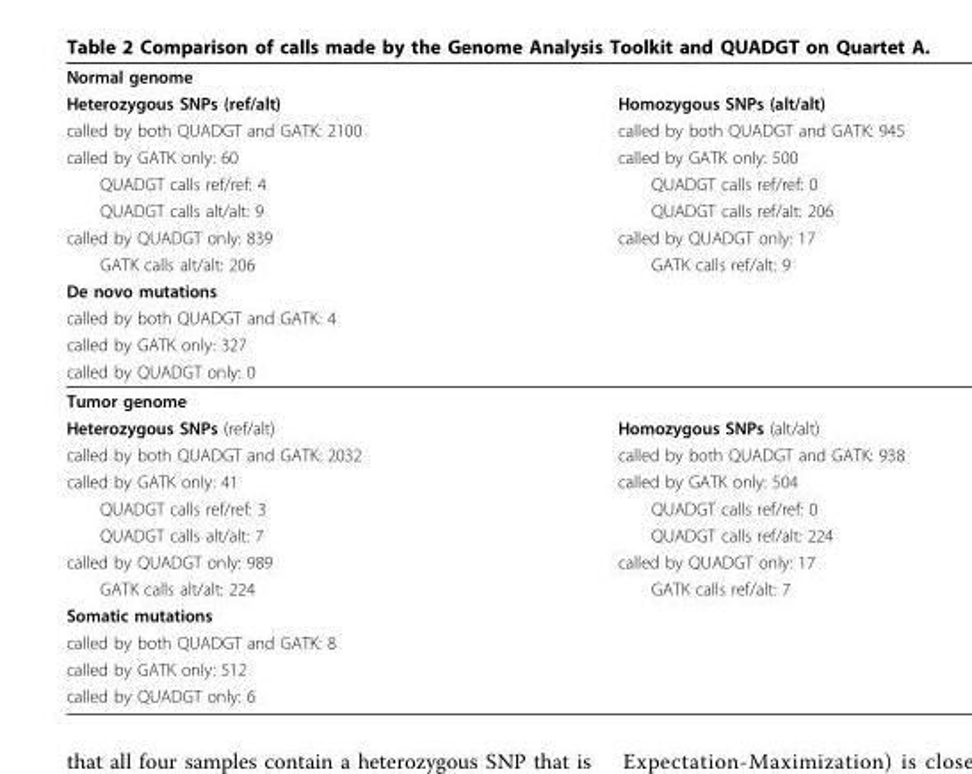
<table><thead><tr><td rowspan="12">Normal genome Heterozygous SNPs (ref/alt) called by both QUADGT and GATK: 2100 called by GATK only: 60 QUADGT calls ref/ref: 4 QUADGT calls alt/alt: 9 called by QUADGT only: 839 GATK calls alt/alt: 206 De novo mutations called by both QUADGT and GATK: 4 called by GATK only: 327 called by QUADGT only: 0</td><td rowspan="12">Homozygous SNPs (alt/alt) called by both QUADGT and GATK: 945 called by GATK only: 500 QUADGT calls ref/ref: 0 QUADGT calls ref/alt: 206 called by QUADGT only: 17 GATK calls ref/alt: 9</td></tr><tr></tr><tr></tr><tr></tr><tr></tr><tr></tr><tr></tr><tr></tr><tr></tr><tr></tr><tr></tr><tr></tr></thead><tbody><tr><td colspan="2">Tumor genome</td></tr><tr><td>Heterozygous SNPs (ref/alt)</td><td>Homozygous SNPs (alt/alt)</td></tr><tr><td>called by both QUADGT and GATK: 2032</td><td>called by both QUADGT and GATK: 938</td></tr><tr><td>called by GATK only: 41</td><td>called by GATK only: 504</td></tr><tr><td>QUADGT calls ref/ref: 3</td><td>QUADGT calls ref/ref: 0</td></tr><tr><td>QUADGT calls alt/alt: 7</td><td>QUADGT calls ref/alt: 224</td></tr><tr><td>called by QUADGT only: 989</td><td>called by QUADGT only: 17</td></tr><tr><td>GATK calls alt/alt: 224</td><td>GATK calls ref/alt: 7</td></tr><tr><td colspan="2">Somatic mutations</td></tr><tr><td colspan="2">called by both QUADGT and GATK: 8</td></tr><tr><td colspan="2">called by GATK only: 512</td></tr><tr><td>called by QUADGT only: 6</td><td></td></tr></tbody></table>